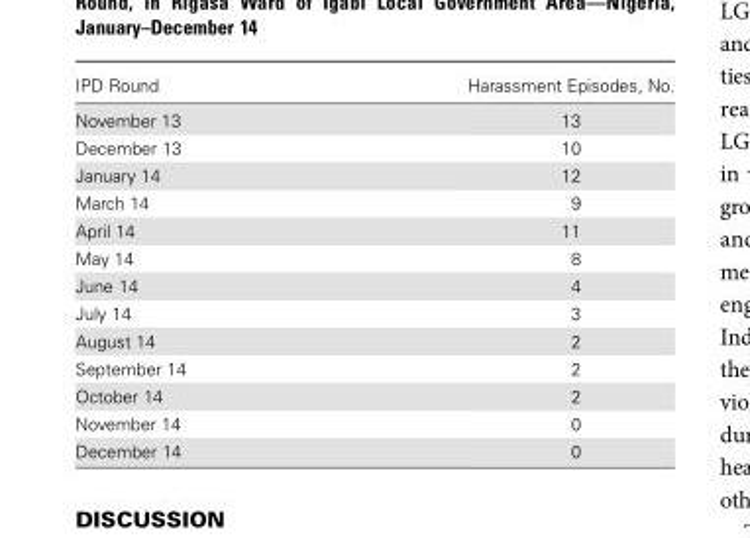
<table><thead><tr><td>IPD Round</td><td>Harassment Episodes, No.</td></tr></thead><tbody><tr><td>November 13</td><td>13</td></tr><tr><td>December 13</td><td>10</td></tr><tr><td>January 14</td><td>12</td></tr><tr><td>March 14</td><td>9</td></tr><tr><td>April 14</td><td>11</td></tr><tr><td>May 14</td><td>8</td></tr><tr><td>June 14</td><td>4</td></tr><tr><td>July 14</td><td>3</td></tr><tr><td>August 14</td><td>2</td></tr><tr><td>September 14</td><td>2</td></tr><tr><td>October 14</td><td>2</td></tr><tr><td>November 14</td><td>0</td></tr><tr><td>December 14</td><td>0</td></tr></tbody></table>